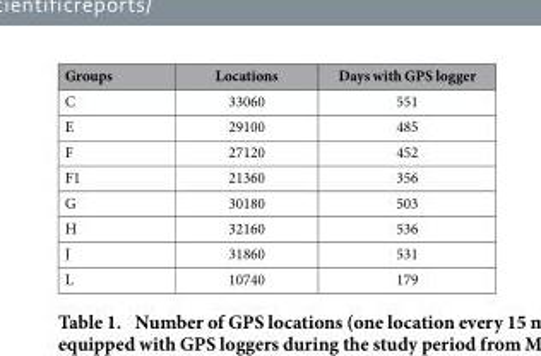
<table><thead><tr><td>Groups</td><td>Locations</td><td>Days with GPS logger</td></tr></thead><tbody><tr><td>C</td><td>33060</td><td>551</td></tr><tr><td>E</td><td>29100</td><td>485</td></tr><tr><td>F</td><td>27120</td><td>452</td></tr><tr><td>F1</td><td>21360</td><td>356</td></tr><tr><td>G</td><td>30180</td><td>503</td></tr><tr><td>H</td><td>32160</td><td>536</td></tr><tr><td>J</td><td>31860</td><td>531</td></tr><tr><td>L</td><td>10740</td><td>179</td></tr></tbody></table>